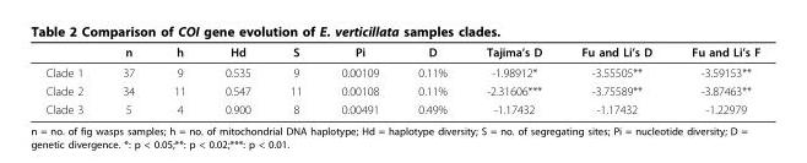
<table><thead><tr><td></td><td>n</td><td>h</td><td>Hd</td><td>S</td><td>Pi</td><td>D</td><td>Tajima’s D</td><td>Fu and Li’s D</td><td>Fu and Li’s F</td></tr></thead><tbody><tr><td>Clade 1</td><td>37</td><td>9</td><td>0.535</td><td>9</td><td>0.00109</td><td>0.11%</td><td>-1.98912*</td><td>-3.55505**</td><td>-3.59153**</td></tr><tr><td>Clade 2</td><td>34</td><td>11</td><td>0.547</td><td>11</td><td>0.00108</td><td>0.11%</td><td>-2.31606***</td><td>-3.75589**</td><td>-3.87463**</td></tr><tr><td>Clade 3</td><td>5</td><td>4</td><td>0.900</td><td>8</td><td>0.00491</td><td>0.49%</td><td>-1.17432</td><td>-1.17432</td><td>-1.22979</td></tr></tbody></table>